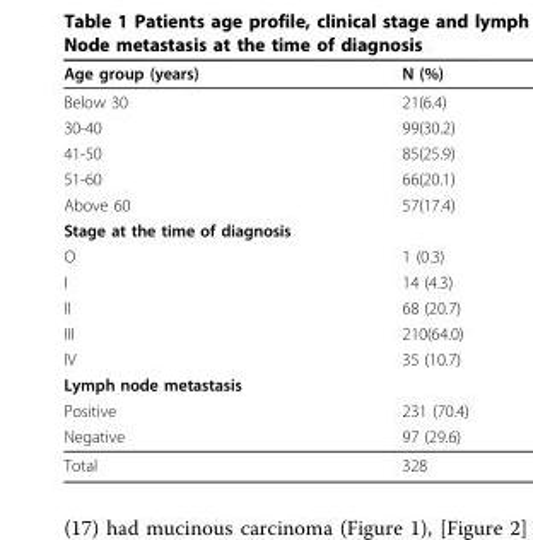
<table><thead><tr><td>Age group (years)</td><td>N (%)</td></tr></thead><tbody><tr><td>Below 30</td><td>21(6.4)</td></tr><tr><td>30-40</td><td>99(30.2)</td></tr><tr><td>41-50</td><td>85(25.9)</td></tr><tr><td>51-60</td><td>66(20.1)</td></tr><tr><td>Above 60</td><td>57(17.4)</td></tr><tr><td colspan="2">Stage at the time of diagnosis</td></tr><tr><td>O</td><td>1 (0.3)</td></tr><tr><td>I</td><td>14 (4.3)</td></tr><tr><td>II</td><td>68 (20.7)</td></tr><tr><td>III</td><td>210(64.0)</td></tr><tr><td>IV</td><td>35 (10.7)</td></tr><tr><td colspan="2">Lymph node metastasis</td></tr><tr><td>Positive</td><td>231 (70.4)</td></tr><tr><td>Negative</td><td>97 (29.6)</td></tr><tr><td>Total</td><td>328</td></tr></tbody></table>